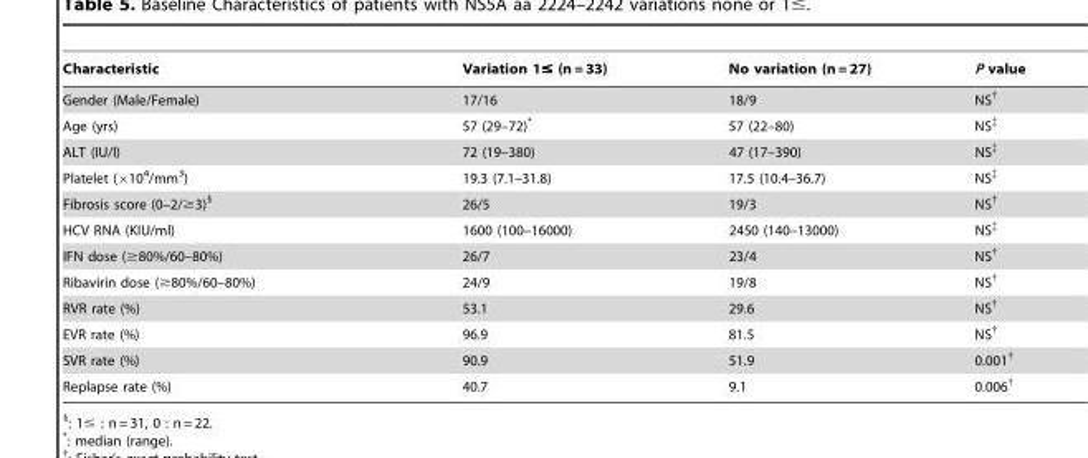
<table><thead><tr><td>Characteristic</td><td>Variation 1≤ (n = 33)</td><td>No variation (n = 27)</td><td>P value</td></tr></thead><tbody><tr><td>Gender (Male/Female)</td><td>17/16</td><td>18/9</td><td>NS†</td></tr><tr><td>Age (yrs)</td><td>57 (29–72)*</td><td>57 (22–80)</td><td>NS‡</td></tr><tr><td>ALT (IU/l)</td><td>72 (19–380)</td><td>47 (17–390)</td><td>NS‡</td></tr><tr><td>Platelet (×10<sup>4</sup>/mm<sup>3</sup>)</td><td>19.3 (7.1–31.8)</td><td>17.5 (10.4–36.7)</td><td>NS‡</td></tr><tr><td>Fibrosis score (0–2/≥3)§</td><td>26/5</td><td>19/3</td><td>NS†</td></tr><tr><td>HCV RNA (KIU/ml)</td><td>1600 (100–16000)</td><td>2450 (140–13000)</td><td>NS‡</td></tr><tr><td>IFN dose (≥80%/60–80%)</td><td>26/7</td><td>23/4</td><td>NS†</td></tr><tr><td>Ribavirin dose (≥80%/60–80%)</td><td>24/9</td><td>19/8</td><td>NS†</td></tr><tr><td>RVR rate (%)</td><td>53.1</td><td>29.6</td><td>NS†</td></tr><tr><td>EVR rate (%)</td><td>96.9</td><td>81.5</td><td>NS†</td></tr><tr><td>SVR rate (%)</td><td>90.9</td><td>51.9</td><td>0.001†</td></tr><tr><td>Replapse rate (%)</td><td>40.7</td><td>9.1</td><td>0.006†</td></tr></tbody></table>